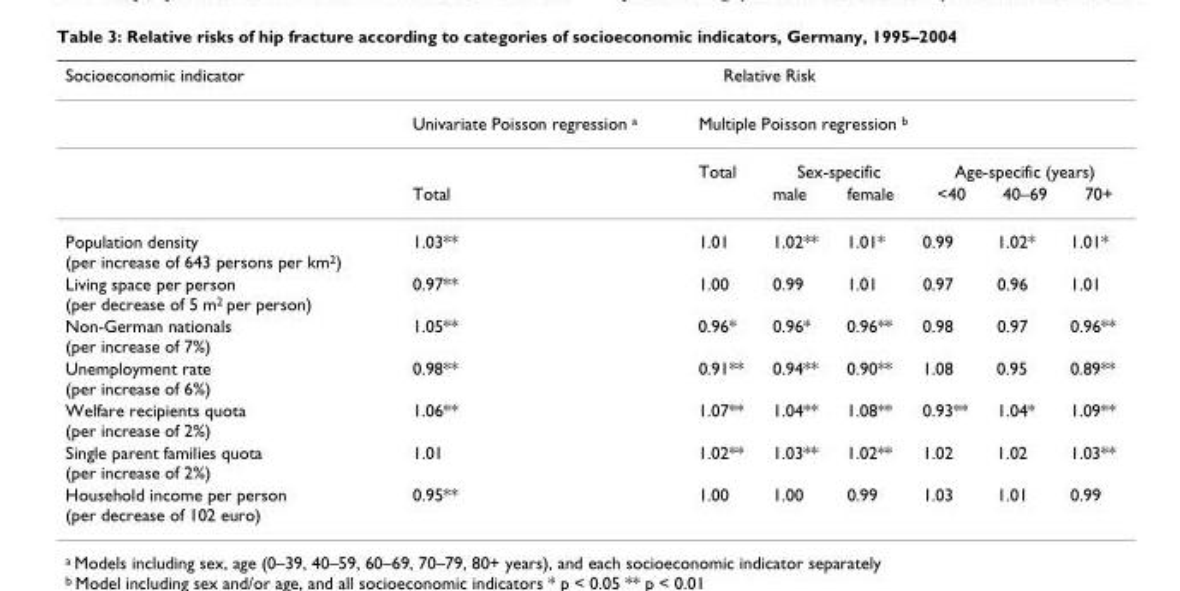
<table><thead><tr><td rowspan="4">Socioeconomic indicator</td><td colspan="7">Relative Risk</td></tr><tr><td rowspan="3">Univariate Poisson regression a Total</td><td colspan="6">Multiple Poisson regression b</td></tr><tr><td rowspan="2">Total</td><td colspan="2">Sex-specific</td><td colspan="3">Age-specific (years)</td></tr><tr><td>male</td><td>female</td><td>&lt;40</td><td>40–69</td><td>70+</td></tr></thead><tbody><tr><td>Population density (per increase of 643 persons per km<sup>2</sup>)</td><td>1.03**</td><td>1.01</td><td>1.02**</td><td>1.01*</td><td>0.99</td><td>1.02*</td><td>1.01*</td></tr><tr><td>Living space per person (per decrease of 5 m<sup>2</sup> per person)</td><td>0.97**</td><td>1.00</td><td>0.99</td><td>1.01</td><td>0.97</td><td>0.96</td><td>1.01</td></tr><tr><td>Non-German nationals (per increase of 7%)</td><td>1.05**</td><td>0.96*</td><td>0.96*</td><td>0.96**</td><td>0.98</td><td>0.97</td><td>0.96**</td></tr><tr><td>Unemployment rate (per increase of 6%)</td><td>0.98**</td><td>0.91**</td><td>0.94**</td><td>0.90**</td><td>1.08</td><td>0.95</td><td>0.89**</td></tr><tr><td>Welfare recipients quota (per increase of 2%)</td><td>1.06**</td><td>1.07**</td><td>1.04**</td><td>1.08**</td><td>0.93**</td><td>1.04*</td><td>1.09**</td></tr><tr><td>Single parent families quota (per increase of 2%)</td><td>1.01</td><td>1.02**</td><td>1.03**</td><td>1.02**</td><td>1.02</td><td>1.02</td><td>1.03**</td></tr><tr><td>Household income per person (per decrease of 102 euro)</td><td>0.95**</td><td>1.00</td><td>1.00</td><td>0.99</td><td>1.03</td><td>1.01</td><td>0.99</td></tr></tbody></table>